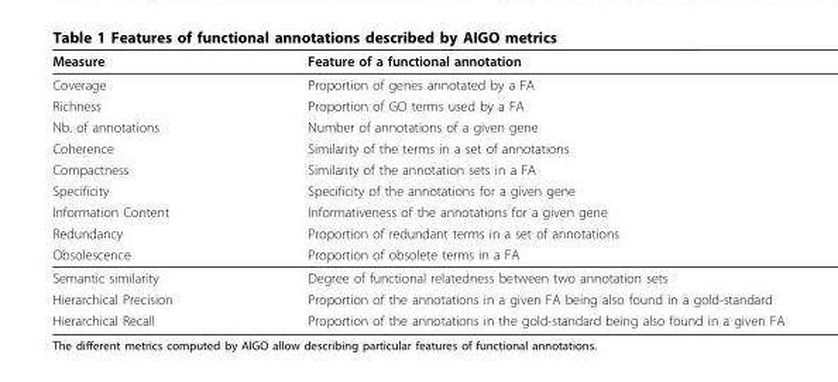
<table><thead><tr><td>Measure</td><td>Feature of a functional annotation</td></tr></thead><tbody><tr><td>Coverage</td><td>Proportion of genes annotated by a FA</td></tr><tr><td>Richness</td><td>Proportion of GO terms used by a FA</td></tr><tr><td>Nb. of annotations</td><td>Number of annotations of a given gene</td></tr><tr><td>Coherence</td><td>Similarity of the terms in a set of annotations</td></tr><tr><td>Compactness</td><td>Similarity of the annotation sets in a FA</td></tr><tr><td>Specificity</td><td>Specificity of the annotations for a given gene</td></tr><tr><td>Information Content</td><td>Informativeness of the annotations for a given gene</td></tr><tr><td>Redundancy</td><td>Proportion of redundant terms in a set of annotations</td></tr><tr><td>Obsolescence</td><td>Proportion of obsolete terms in a FA</td></tr><tr><td>Semantic similarity</td><td>Degree of functional relatedness between two annotation sets</td></tr><tr><td>Hierarchical Precision</td><td>Proportion of the annotations in a given FA being also found in a gold-standard</td></tr><tr><td>Hierarchical Recall</td><td>Proportion of the annotations in the gold-standard being also found in a given FA</td></tr></tbody></table>